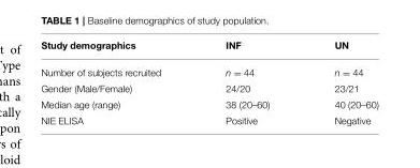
<table><thead><tr><td>Study demographics</td><td>INF</td><td>UN</td></tr></thead><tbody><tr><td>Number of subjects recruited</td><td>n = 44</td><td>n = 44</td></tr><tr><td>Gender (Male/Female)</td><td>24/20</td><td>23/21</td></tr><tr><td>Median age (range)</td><td>38 (20–60)</td><td>40 (20–60)</td></tr><tr><td>NIE ELISA</td><td>Positive</td><td>Negative</td></tr></tbody></table>